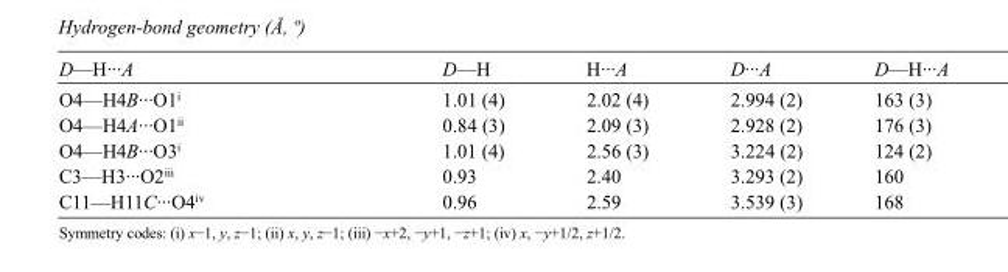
<table><tbody><tr><td>D—H···A</td><td>D—H</td><td>H···A</td><td>D···A</td><td>D—H···A</td></tr><tr><td>O4—H4B···O1<sup>i</sup></td><td>1.01 (4)</td><td>2.02 (4)</td><td>2.994 (2)</td><td>163 (3)</td></tr><tr><td>O4—H4A···O1<sup>ii</sup></td><td>0.84 (3)</td><td>2.09 (3)</td><td>2.928 (2)</td><td>176 (3)</td></tr><tr><td>O4—H4B···O3<sup>i</sup></td><td>1.01 (4)</td><td>2.56 (3)</td><td>3.224 (2)</td><td>124 (2)</td></tr><tr><td>C3—H3···O2<sup>iii</sup></td><td>0.93</td><td>2.40</td><td>3.293 (2)</td><td>160</td></tr><tr><td>C11—H11C···O4<sup>iv</sup></td><td>0.96</td><td>2.59</td><td>3.539 (3)</td><td>168</td></tr></tbody></table>